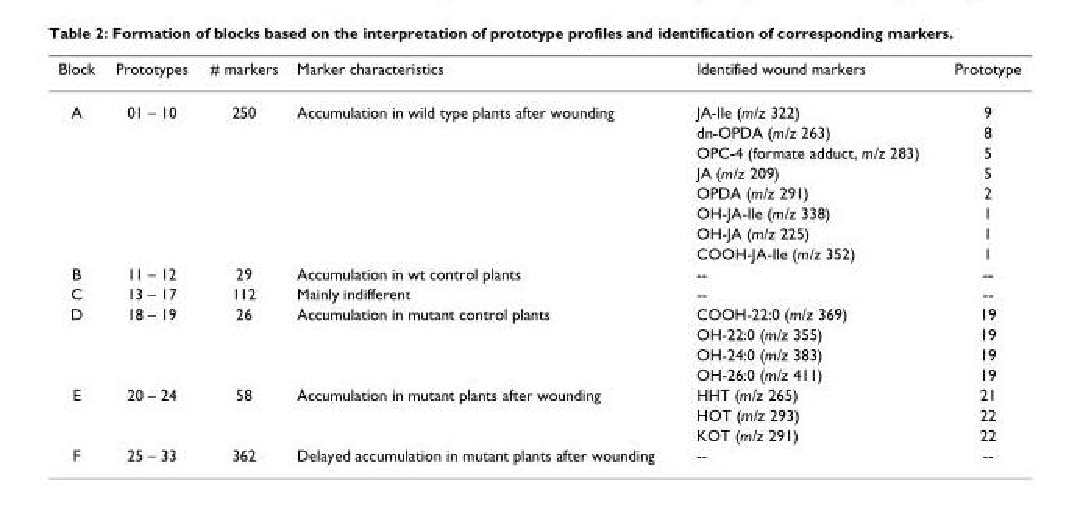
<table><thead><tr><td>Block</td><td>Prototypes</td><td># markers</td><td>Marker characteristics</td><td>Identified wound markers</td><td>Prototype</td></tr></thead><tbody><tr><td rowspan="8">A</td><td>01 – 10</td><td>250</td><td>Accumulation in wild type plants after wounding</td><td>JA-Ile (m/z 322)</td><td>9</td></tr><tr><td></td><td></td><td></td><td>dn-OPDA (m/z 263)</td><td>8</td></tr><tr><td></td><td></td><td></td><td>OPC-4 (formate adduct, m/z 283)</td><td>5</td></tr><tr><td></td><td></td><td></td><td>JA (m/z 209)</td><td>5</td></tr><tr><td></td><td></td><td></td><td>OPDA (m/z 291)</td><td>2</td></tr><tr><td></td><td></td><td></td><td>OH-JA-Ile (m/z 338)</td><td>1</td></tr><tr><td></td><td></td><td></td><td>OH-JA (m/z 225)</td><td>1</td></tr><tr><td></td><td></td><td></td><td>COOH-JA-Ile (m/z 352)</td><td>1</td></tr><tr><td>B</td><td>11 – 12</td><td>29</td><td>Accumulation in wt control plants</td><td>--</td><td>--</td></tr><tr><td>C</td><td>13 – 17</td><td>112</td><td>Mainly indifferent</td><td>--</td><td>--</td></tr><tr><td rowspan="4">D</td><td>18 – 19</td><td>26</td><td>Accumulation in mutant control plants</td><td>COOH-22:0 (m/z 369)</td><td>19</td></tr><tr><td></td><td></td><td></td><td>OH-22:0 (m/z 355)</td><td>19</td></tr><tr><td></td><td></td><td></td><td>OH-24:0 (m/z 383)</td><td>19</td></tr><tr><td></td><td></td><td></td><td>OH-26:0 (m/z 411)</td><td>19</td></tr><tr><td rowspan="3">E</td><td>20 – 24</td><td>58</td><td>Accumulation in mutant plants after wounding</td><td>HHT (m/z 265)</td><td>21</td></tr><tr><td></td><td></td><td></td><td>HOT (m/z 293)</td><td>22</td></tr><tr><td></td><td></td><td></td><td>KOT (m/z 291)</td><td>22</td></tr><tr><td>F</td><td>25 – 33</td><td>362</td><td>Delayed accumulation in mutant plants after wounding</td><td>--</td><td>--</td></tr></tbody></table>